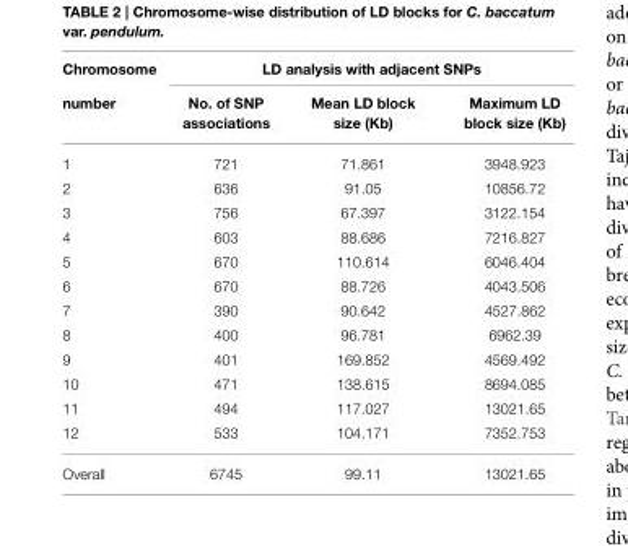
<table><thead><tr><td rowspan="2">Chromosome number</td><td colspan="3">LD analysis with adjacent SNPs</td></tr><tr><td>No. of SNP associations</td><td>Mean LD block size (Kb)</td><td>Maximum LD block size (Kb)</td></tr></thead><tbody><tr><td>1</td><td>721</td><td>71.861</td><td>3948.923</td></tr><tr><td>2</td><td>636</td><td>91.05</td><td>10856.72</td></tr><tr><td>3</td><td>756</td><td>67.397</td><td>3122.154</td></tr><tr><td>4</td><td>603</td><td>88.686</td><td>7216.827</td></tr><tr><td>5</td><td>670</td><td>110.614</td><td>6046.404</td></tr><tr><td>6</td><td>670</td><td>88.726</td><td>4043.506</td></tr><tr><td>7</td><td>390</td><td>90.642</td><td>4527.862</td></tr><tr><td>8</td><td>400</td><td>96.781</td><td>6962.39</td></tr><tr><td>9</td><td>401</td><td>169.852</td><td>4569.492</td></tr><tr><td>10</td><td>471</td><td>138.615</td><td>8694.085</td></tr><tr><td>11</td><td>494</td><td>117.027</td><td>13021.65</td></tr><tr><td>12</td><td>533</td><td>104.171</td><td>7352.753</td></tr><tr><td>Overall</td><td>6745</td><td>99.11</td><td>13021.65</td></tr></tbody></table>